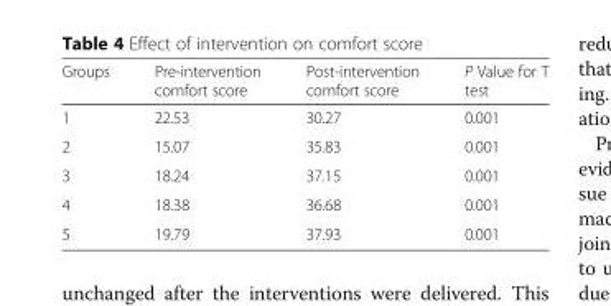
<table><thead><tr><td>Groups</td><td>Pre-intervention comfort score</td><td>Post-intervention comfort score</td><td>P Value for T test</td></tr></thead><tbody><tr><td>1</td><td>22.53</td><td>30.27</td><td>0.001</td></tr><tr><td>2</td><td>15.07</td><td>35.83</td><td>0.001</td></tr><tr><td>3</td><td>18.24</td><td>37.15</td><td>0.001</td></tr><tr><td>4</td><td>18.38</td><td>36.68</td><td>0.001</td></tr><tr><td>5</td><td>19.79</td><td>37.93</td><td>0.001</td></tr></tbody></table>